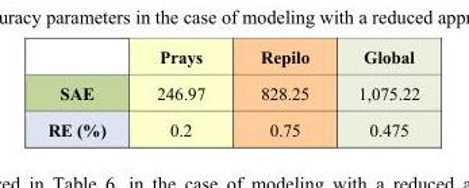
<table><thead><tr><td></td><td>Prays</td><td>Repilo</td><td>Global</td></tr></thead><tbody><tr><td>SAE</td><td>246.97</td><td>828.25</td><td>1,075.22</td></tr><tr><td>RE (%)</td><td>0.2</td><td>0.75</td><td>0.475</td></tr></tbody></table>